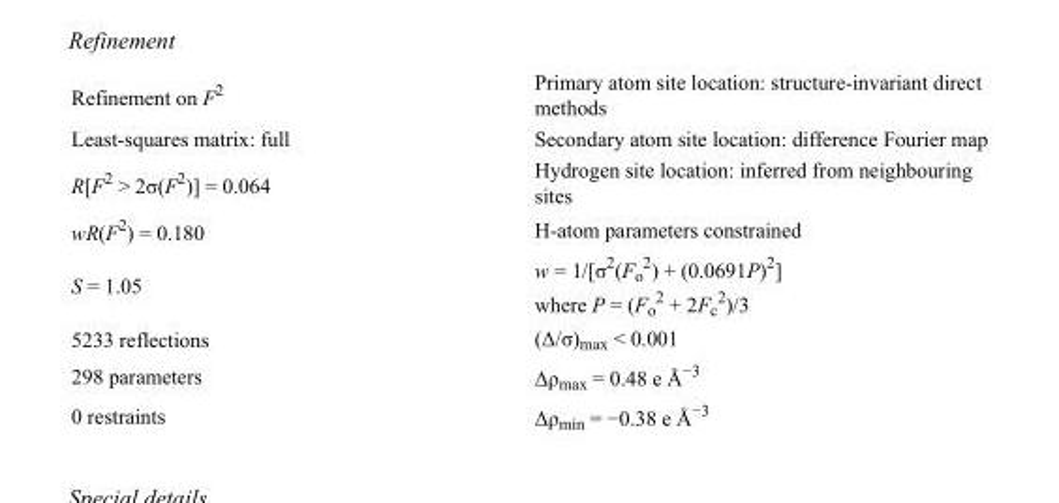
<table><tbody><tr><td>Refinement on F<sup>2</sup></td><td>Primary atom site location: structure-invariant direct methods</td></tr><tr><td>Least-squares matrix: full</td><td>Secondary atom site location: difference Fourier map</td></tr><tr><td>R[F<sup>2</sup> &gt; 2σ(F<sup>2</sup>)] = 0.064</td><td>Hydrogen site location: inferred from neighbouring sites</td></tr><tr><td>wR(F<sup>2</sup>) = 0.180</td><td>H-atom parameters constrained</td></tr><tr><td>S = 1.05</td><td>w = 1/[σ<sup>2</sup>(F<sub>o</sub> <sup>2</sup>) + (0.0691P)<sup>2</sup>] where P = (F<sub>o</sub> <sup>2</sup> + 2F<sub>c</sub> <sup>2</sup>)/3</td></tr><tr><td>5233 reflections</td><td>(Δ/σ)<sub>max</sub> &lt; 0.001</td></tr><tr><td>298 parameters</td><td>Δρ<sub>max</sub> = 0.48 e Å<sup>−3</sup></td></tr><tr><td>0 restraints</td><td>Δρ<sub>min</sub> = −0.38 e Å<sup>−3</sup></td></tr></tbody></table>